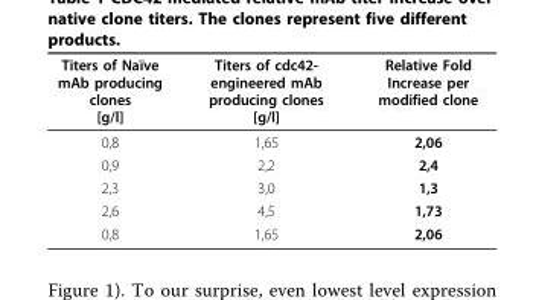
<table><thead><tr><td>Titers of Naïve mAb producing clones [g/l]</td><td>Titers of cdc42- engineered mAb producing clones [g/l]</td><td>Relative Fold Increase per modified clone</td></tr></thead><tbody><tr><td>0,8</td><td>1,65</td><td>2,06</td></tr><tr><td>0,9</td><td>2,2</td><td>2,4</td></tr><tr><td>2,3</td><td>3,0</td><td>1,3</td></tr><tr><td>2,6</td><td>4,5</td><td>1,73</td></tr><tr><td>0,8</td><td>1,65</td><td>2,06</td></tr></tbody></table>